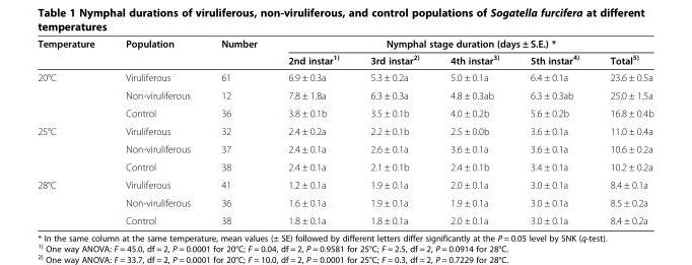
<table><thead><tr><td rowspan="2">Temperature</td><td rowspan="2">Population</td><td rowspan="2">Number</td><td colspan="5">Nymphal stage duration (days ± S.E.) *</td></tr><tr><td>2nd instar<sup>1)</sup></td><td>3rd instar<sup>2)</sup></td><td>4th instar<sup>3)</sup></td><td>5th instar<sup>4)</sup></td><td>Total<sup>5)</sup></td></tr></thead><tbody><tr><td rowspan="3">20°C</td><td>Viruliferous</td><td>61</td><td>6.9 ± 0.3a</td><td>5.3 ± 0.2a</td><td>5.0 ± 0.1a</td><td>6.4 ± 0.1a</td><td>23.6 ± 0.5a</td></tr><tr><td>Non-viruliferous</td><td>12</td><td>7.8 ± 1.8a</td><td>6.3 ± 0.3a</td><td>4.8 ± 0.3ab</td><td>6.3 ± 0.3ab</td><td>25.0 ± 1.5a</td></tr><tr><td>Control</td><td>36</td><td>3.8 ± 0.1b</td><td>3.5 ± 0.1b</td><td>4.0 ± 0.2b</td><td>5.6 ± 0.2b</td><td>16.8 ± 0.4b</td></tr><tr><td rowspan="3">25°C</td><td>Viruliferous</td><td>32</td><td>2.4 ± 0.2a</td><td>2.2 ± 0.1b</td><td>2.5 ± 0.0b</td><td>3.6 ± 0.1a</td><td>11.0 ± 0.4a</td></tr><tr><td>Non-viruliferous</td><td>37</td><td>2.4 ± 0.1a</td><td>2.6 ± 0.1a</td><td>3.6 ± 0.1a</td><td>3.6 ± 0.1a</td><td>10.6 ± 0.2a</td></tr><tr><td>Control</td><td>38</td><td>2.4 ± 0.1a</td><td>2.1 ± 0.1b</td><td>2.4 ± 0.1b</td><td>3.4 ± 0.1a</td><td>10.2 ± 0.2a</td></tr><tr><td rowspan="3">28°C</td><td>Viruliferous</td><td>41</td><td>1.2 ± 0.1a</td><td>1.9 ± 0.1a</td><td>2.0 ± 0.1a</td><td>3.0 ± 0.1a</td><td>8.4 ± 0.1a</td></tr><tr><td>Non-viruliferous</td><td>36</td><td>1.6 ± 0.1a</td><td>1.9 ± 0.1a</td><td>1.9 ± 0.1a</td><td>3.0 ± 0.1a</td><td>8.5 ± 0.2a</td></tr><tr><td>Control</td><td>38</td><td>1.8 ± 0.1a</td><td>1.8 ± 0.1a</td><td>2.0 ± 0.1a</td><td>3.0 ± 0.1a</td><td>8.4 ± 0.2a</td></tr></tbody></table>